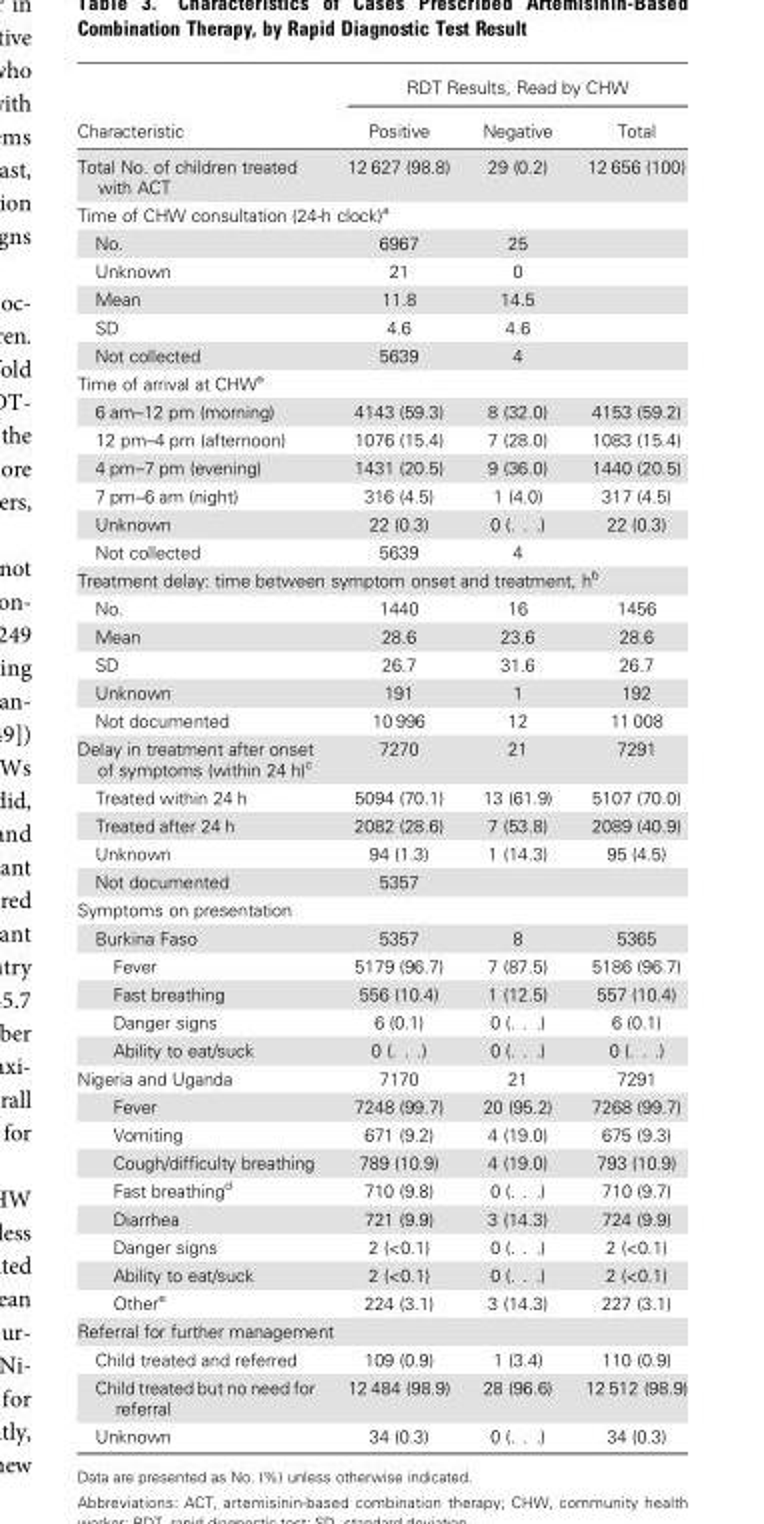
<table><thead><tr><td rowspan="2">Characteristic</td><td colspan="3">RDT Results, Read by CHW</td></tr><tr><td>Positive</td><td>Negative</td><td>Total</td></tr></thead><tbody><tr><td>Total No. of children treated with ACT</td><td>12 627 (98.8)</td><td>29 (0.2)</td><td>12 656 (100)</td></tr><tr><td colspan="4">Time of CHW consultation (24-h clock)<sup>a</sup></td></tr><tr><td>No.</td><td>6967</td><td>25</td><td></td></tr><tr><td>Unknown</td><td>21</td><td>0</td><td></td></tr><tr><td>Mean</td><td>11.8</td><td>14.5</td><td></td></tr><tr><td>SD</td><td>4.6</td><td>4.6</td><td></td></tr><tr><td>Not collected</td><td>5639</td><td>4</td><td></td></tr><tr><td colspan="4">Time of arrival at CHW<sup>a</sup></td></tr><tr><td>6 am–12 pm (morning)</td><td>4143 (59.3)</td><td>8 (32.0)</td><td>4153 (59.2)</td></tr><tr><td>12 pm–4 pm (afternoon)</td><td>1076 (15.4)</td><td>7 (28.0)</td><td>1083 (15.4)</td></tr><tr><td>4 pm–7 pm (evening)</td><td>1431 (20.5)</td><td>9 (36.0)</td><td>1440 (20.5)</td></tr><tr><td>7 pm–6 am (night)</td><td>316 (4.5)</td><td>1 (4.0)</td><td>317 (4.5)</td></tr><tr><td>Unknown</td><td>22 (0.3)</td><td>0 (. . .)</td><td>22 (0.3)</td></tr><tr><td>Not collected</td><td>5639</td><td>4</td><td></td></tr><tr><td colspan="4">Treatment delay: time between symptom onset and treatment, h<sup>b</sup></td></tr><tr><td>No.</td><td>1440</td><td>16</td><td>1456</td></tr><tr><td>Mean</td><td>28.6</td><td>23.6</td><td>28.6</td></tr><tr><td>SD</td><td>26.7</td><td>31.6</td><td>26.7</td></tr><tr><td>Unknown</td><td>191</td><td>1</td><td>192</td></tr><tr><td>Not documented</td><td>10 996</td><td>12</td><td>11 008</td></tr><tr><td>Delay in treatment after onset of symptoms (within 24 h)<sup>c</sup></td><td>7270</td><td>21</td><td>7291</td></tr><tr><td>Treated within 24 h</td><td>5094 (70.1)</td><td>13 (61.9)</td><td>5107 (70.0)</td></tr><tr><td>Treated after 24 h</td><td>2082 (28.6)</td><td>7 (53.8)</td><td>2089 (40.9)</td></tr><tr><td>Unknown</td><td>94 (1.3)</td><td>1 (14.3)</td><td>95 (4.5)</td></tr><tr><td>Not documented</td><td>5357</td><td></td><td></td></tr><tr><td colspan="4">Symptoms on presentation</td></tr><tr><td>Burkina Faso</td><td>5357</td><td>8</td><td>5365</td></tr><tr><td>Fever</td><td>5179 (96.7)</td><td>7 (87.5)</td><td>5186 (96.7)</td></tr><tr><td>Fast breathing</td><td>556 (10.4)</td><td>1 (12.5)</td><td>557 (10.4)</td></tr><tr><td>Danger signs</td><td>6 (0.1)</td><td>0 (. . .)</td><td>6 (0.1)</td></tr><tr><td>Ability to eat/suck</td><td>0 (. . .)</td><td>0 (. . .)</td><td>0 (. . .)</td></tr><tr><td>Nigeria and Uganda</td><td>7170</td><td>21</td><td>7291</td></tr><tr><td>Fever</td><td>7248 (99.7)</td><td>20 (95.2)</td><td>7268 (99.7)</td></tr><tr><td>Vomiting</td><td>671 (9.2)</td><td>4 (19.0)</td><td>675 (9.3)</td></tr><tr><td>Cough/difficulty breathing</td><td>789 (10.9)</td><td>4 (19.0)</td><td>793 (10.9)</td></tr><tr><td>Fast breathing<sup>d</sup></td><td>710 (9.8)</td><td>0 (. . .)</td><td>710 (9.7)</td></tr><tr><td>Diarrhea</td><td>721 (9.9)</td><td>3 (14.3)</td><td>724 (9.9)</td></tr><tr><td>Danger signs</td><td>2 (&lt;0.1)</td><td>0 (. . .)</td><td>2 (&lt;0.1)</td></tr><tr><td>Ability to eat/suck</td><td>2 (&lt;0.1)</td><td>0 (. . .)</td><td>2 (&lt;0.1)</td></tr><tr><td>Other<sup>e</sup></td><td>224 (3.1)</td><td>3 (14.3)</td><td>227 (3.1)</td></tr><tr><td colspan="4">Referral for further management</td></tr><tr><td>Child treated and referred</td><td>109 (0.9)</td><td>1 (3.4)</td><td>110 (0.9)</td></tr><tr><td>Child treated but no need for referral</td><td>12 484 (98.9)</td><td>28 (96.6)</td><td>12 512 (98.9)</td></tr><tr><td>Unknown</td><td>34 (0.3)</td><td>0 (. . .)</td><td>34 (0.3)</td></tr></tbody></table>